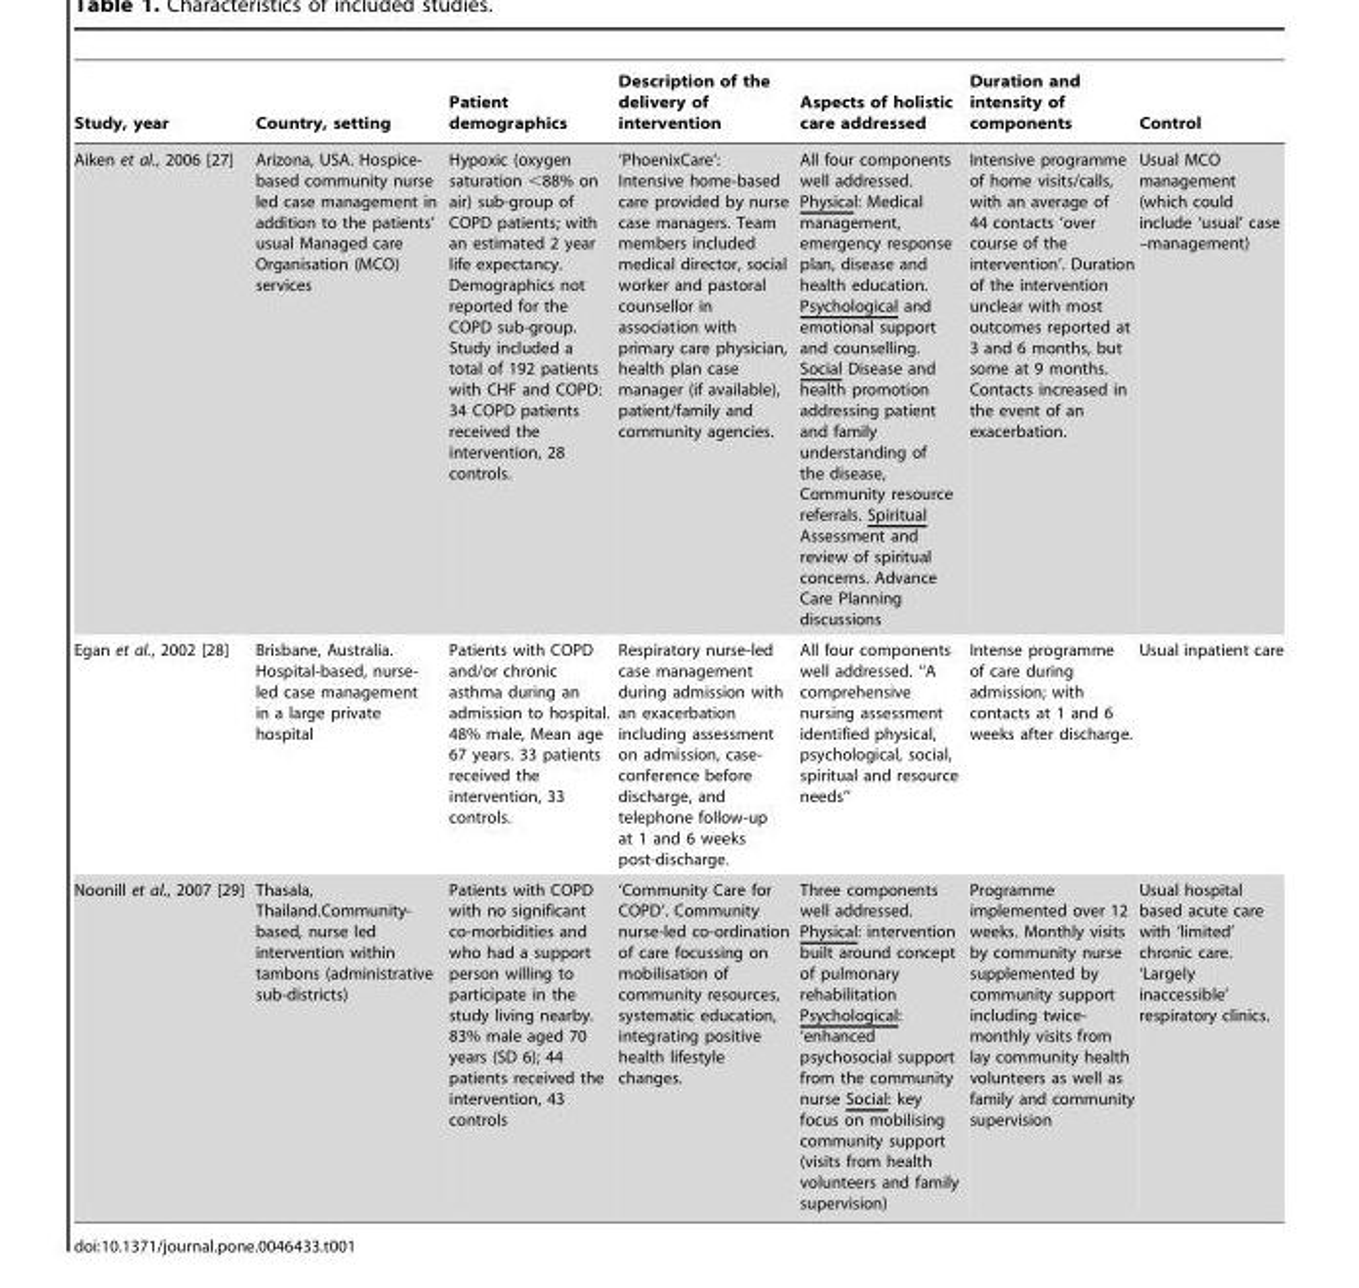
<table><thead><tr><td>Study, year</td><td>Country, setting</td><td>Patient demographics</td><td>Description of the delivery of intervention</td><td>Aspects of holistic care addressed</td><td>Duration and intensity of components</td><td>Control</td></tr></thead><tbody><tr><td>Aiken et al., 2006 [27]</td><td>Arizona, USA. Hospice- based community nurse led case management in addition to the patients’ usual Managed care Organisation (MCO) services</td><td>Hypoxic (oxygen saturation &lt;88% on air) sub-group of COPD patients; with an estimated 2 year life expectancy. Demographics not reported for the COPD sub-group. Study included a total of 192 patients with CHF and COPD: 34 COPD patients received the intervention, 28 controls.</td><td>‘PhoenixCare’: Intensive home-based care provided by nurse case managers. Team members included medical director, social worker and pastoral counsellor in association with primary care physician, health plan case manager (if available), patient/family and community agencies.</td><td>All four components well addressed. Physical: Medical management, emergency response plan, disease and health education. Psychological and emotional support and counselling. Social Disease and health promotion addressing patient and family understanding of the disease, Community resource referrals. Spiritual Assessment and review of spiritual concerns. Advance Care Planning discussions</td><td>Intensive programme of home visits/calls, with an average of 44 contacts ‘over course of the intervention’. Duration of the intervention unclear with most outcomes reported at 3 and 6 months, but some at 9 months. Contacts increased in the event of an exacerbation.</td><td>Usual MCO management (which could include ‘usual’ case –management)</td></tr><tr><td>Egan et al., 2002 [28]</td><td>Brisbane, Australia. Hospital-based, nurse- led case management in a large private hospital</td><td>Patients with COPD and/or chronic asthma during an admission to hospital. 48% male, Mean age 67 years. 33 patients received the intervention, 33 controls.</td><td>Respiratory nurse-led case management during admission with an exacerbation including assessment on admission, case- conference before discharge, and telephone follow-up at 1 and 6 weeks post-discharge.</td><td>All four components well addressed. ‘‘A comprehensive nursing assessment identified physical, psychological, social, spiritual and resource needs’’</td><td>Intense programme of care during admission; with contacts at 1 and 6 weeks after discharge.</td><td>Usual inpatient care</td></tr><tr><td>Noonill et al., 2007 [29]</td><td>Thasala, Thailand.Community- based, nurse led intervention within tambons (administrative sub-districts)</td><td>Patients with COPD with no significant co-morbidities and who had a support person willing to participate in the study living nearby. 83% male aged 70 years (SD 6); 44 patients received the intervention, 43 controls</td><td>‘Community Care for COPD’. Community nurse-led co-ordination of care focussing on mobilisation of community resources, systematic education, integrating positive health lifestyle changes.</td><td>Three components well addressed. Physical: intervention built around concept of pulmonary rehabilitation Psychological: ‘enhanced psychosocial support from the community nurse Social: key focus on mobilising community support (visits from health volunteers and family supervision)</td><td>Programme implemented over 12 weeks. Monthly visits by community nurse supplemented by community support including twice- monthly visits from lay community health volunteers as well as family and community supervision</td><td>Usual hospital based acute care with ‘limited’ chronic care. ‘Largely inaccessible’ respiratory clinics.</td></tr></tbody></table>